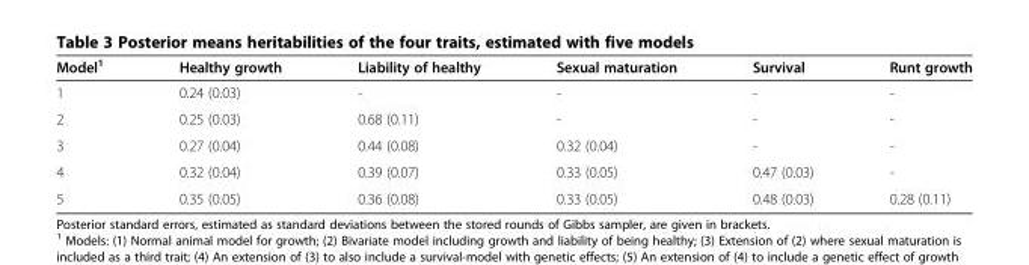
<table><thead><tr><td>Model<sup>1</sup></td><td>Healthy growth</td><td>Liability of healthy</td><td>Sexual maturation</td><td>Survival</td><td>Runt growth</td></tr></thead><tbody><tr><td>1</td><td>0.24 (0.03)</td><td>-</td><td>-</td><td>-</td><td>-</td></tr><tr><td>2</td><td>0.25 (0.03)</td><td>0.68 (0.11)</td><td>-</td><td>-</td><td>-</td></tr><tr><td>3</td><td>0.27 (0.04)</td><td>0.44 (0.08)</td><td>0.32 (0.04)</td><td>-</td><td>-</td></tr><tr><td>4</td><td>0.32 (0.04)</td><td>0.39 (0.07)</td><td>0.33 (0.05)</td><td>0.47 (0.03)</td><td>-</td></tr><tr><td>5</td><td>0.35 (0.05)</td><td>0.36 (0.08)</td><td>0.33 (0.05)</td><td>0.48 (0.03)</td><td>0.28 (0.11)</td></tr></tbody></table>